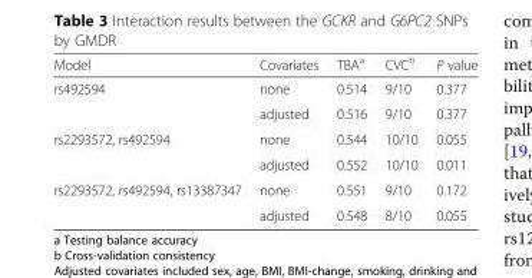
<table><thead><tr><td>Model</td><td>Covariates</td><td>TBA<sup>a</sup></td><td>CVC<sup>b</sup></td><td>P value</td></tr></thead><tbody><tr><td rowspan="2">rs492594</td><td>none</td><td>0.514</td><td>9/10</td><td>0.377</td></tr><tr><td>adjusted</td><td>0.516</td><td>9/10</td><td>0.377</td></tr><tr><td rowspan="2">rs2293572, rs492594</td><td>none</td><td>0.544</td><td>10/10</td><td>0.055</td></tr><tr><td>adjusted</td><td>0.552</td><td>10/10</td><td>0.011</td></tr><tr><td rowspan="2">rs2293572, rs492594, rs13387347</td><td>none</td><td>0.551</td><td>9/10</td><td>0.172</td></tr><tr><td>adjusted</td><td>0.548</td><td>8/10</td><td>0.055</td></tr></tbody></table>